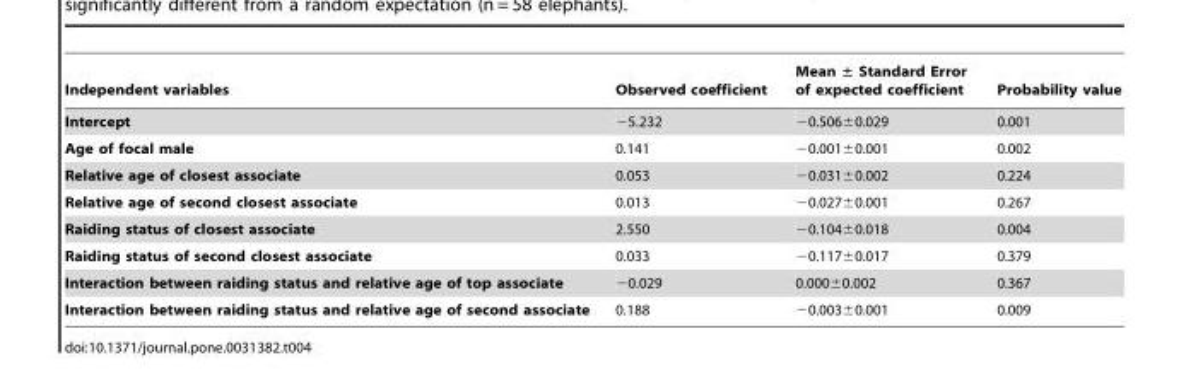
<table><thead><tr><td>Independent variables</td><td>Observed coefficient</td><td>Mean ± Standard Error of expected coefficient</td><td>Probability value</td></tr></thead><tbody><tr><td>Intercept</td><td>−5.232</td><td>−0.506±0.029</td><td>0.001</td></tr><tr><td>Age of focal male</td><td>0.141</td><td>−0.001±0.001</td><td>0.002</td></tr><tr><td>Relative age of closest associate</td><td>0.053</td><td>−0.031±0.002</td><td>0.224</td></tr><tr><td>Relative age of second closest associate</td><td>0.013</td><td>−0.027±0.001</td><td>0.267</td></tr><tr><td>Raiding status of closest associate</td><td>2.550</td><td>−0.104±0.018</td><td>0.004</td></tr><tr><td>Raiding status of second closest associate</td><td>0.033</td><td>−0.117±0.017</td><td>0.379</td></tr><tr><td>Interaction between raiding status and relative age of top associate</td><td>−0.029</td><td>0.000±0.002</td><td>0.367</td></tr><tr><td>Interaction between raiding status and relative age of second associate</td><td>0.188</td><td>−0.003±0.001</td><td>0.009</td></tr></tbody></table>